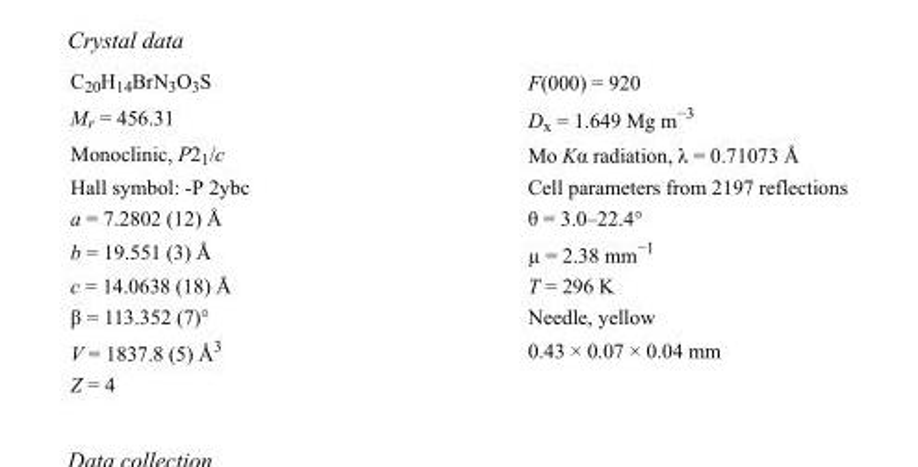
<table><tbody><tr><td>C<sub>20</sub>H<sub>14</sub>BrN<sub>3</sub>O<sub>3</sub>S</td><td>F(000) = 920</td></tr><tr><td>M<sub>r</sub> = 456.31</td><td>D<sub>x</sub> = 1.649 Mg m<sup>−3</sup></td></tr><tr><td>Monoclinic, P2<sub>1</sub>/c</td><td>Mo Kα radiation, λ = 0.71073 Å</td></tr><tr><td>Hall symbol: -P 2ybc</td><td>Cell parameters from 2197 reflections</td></tr><tr><td>a = 7.2802 (12) Å</td><td>θ = 3.0–22.4°</td></tr><tr><td>b = 19.551 (3) Å</td><td>µ = 2.38 mm<sup>−1</sup></td></tr><tr><td>c = 14.0638 (18) Å</td><td>T = 296 K</td></tr><tr><td>β = 113.352 (7)°</td><td>Needle, yellow</td></tr><tr><td>V = 1837.8 (5) Å<sup>3</sup></td><td>0.43 × 0.07 × 0.04 mm</td></tr><tr><td>Z = 4</td><td></td></tr></tbody></table>